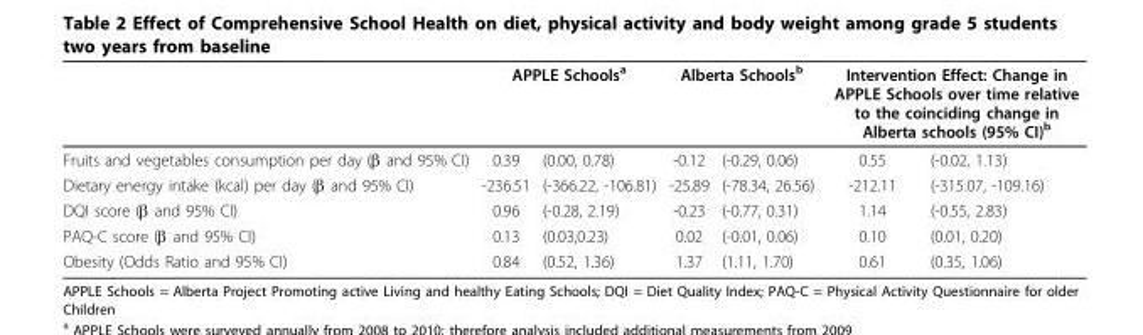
<table><thead><tr><td rowspan="2">Fruits and vegetables consumption per day (β and 95% CI)</td><td colspan="2">APPLE Schools<sup>a</sup></td><td colspan="2">Alberta Schools<sup>b</sup></td><td colspan="2">Intervention Effect: Change in APPLE Schools over time relative to the coinciding change in Alberta schools (95% CI)<sup>b</sup></td></tr><tr><td>0.39</td><td>(0.00, 0.78)</td><td>-0.12</td><td>(-0.29, 0.06)</td><td>0.55</td><td>(-0.02, 1.13)</td></tr></thead><tbody><tr><td>Dietary energy intake (kcal) per day (β and 95% CI)</td><td>-236.51</td><td>(-366.22, -106.81)</td><td>-25.89</td><td>(-78.34, 26.56)</td><td>-212.11</td><td>(-315.07, -109.16)</td></tr><tr><td>DQI score (β and 95% CI)</td><td>0.96</td><td>(-0.28, 2.19)</td><td>-0.23</td><td>(-0.77, 0.31)</td><td>1.14</td><td>(-0.55, 2.83)</td></tr><tr><td>PAQ-C score (β and 95% CI)</td><td>0.13</td><td>(0.03,0.23)</td><td>0.02</td><td>(-0.01, 0.06)</td><td>0.10</td><td>(0.01, 0.20)</td></tr><tr><td>Obesity (Odds Ratio and 95% CI)</td><td>0.84</td><td>(0.52, 1.36)</td><td>1.37</td><td>(1.11, 1.70)</td><td>0.61</td><td>(0.35, 1.06)</td></tr></tbody></table>